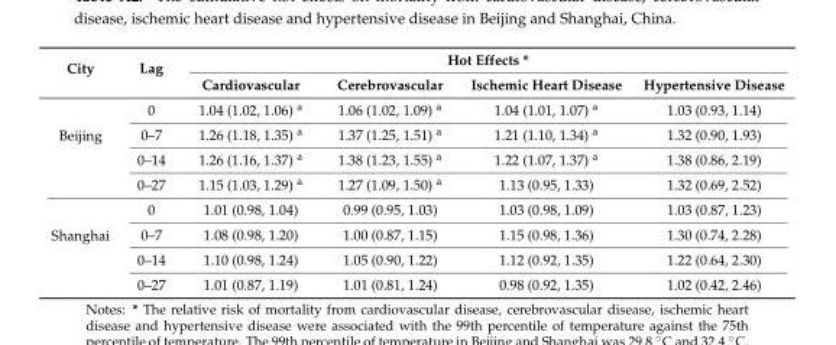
<table><thead><tr><td rowspan="2">City</td><td rowspan="2">Lag</td><td colspan="4">Hot Effects *</td></tr><tr><td>Cardiovascular</td><td>Cerebrovascular</td><td>Ischemic Heart Disease</td><td>Hypertensive Disease</td></tr></thead><tbody><tr><td rowspan="4">Beijing</td><td>0</td><td>1.04 (1.02, 1.06) <sup>a</sup></td><td>1.06 (1.02, 1.09) <sup>a</sup></td><td>1.04 (1.01, 1.07) <sup>a</sup></td><td>1.03 (0.93, 1.14)</td></tr><tr><td>0–7</td><td>1.26 (1.18, 1.35) <sup>a</sup></td><td>1.37 (1.25, 1.51) <sup>a</sup></td><td>1.21 (1.10, 1.34) <sup>a</sup></td><td>1.32 (0.90, 1.93)</td></tr><tr><td>0–14</td><td>1.26 (1.16, 1.37) <sup>a</sup></td><td>1.38 (1.23, 1.55) <sup>a</sup></td><td>1.22 (1.07, 1.37) <sup>a</sup></td><td>1.38 (0.86, 2.19)</td></tr><tr><td>0–27</td><td>1.15 (1.03, 1.29) <sup>a</sup></td><td>1.27 (1.09, 1.50) <sup>a</sup></td><td>1.13 (0.95, 1.33)</td><td>1.32 (0.69, 2.52)</td></tr><tr><td rowspan="4">Shanghai</td><td>0</td><td>1.01 (0.98, 1.04)</td><td>0.99 (0.95, 1.03)</td><td>1.03 (0.98, 1.09)</td><td>1.03 (0.87, 1.23)</td></tr><tr><td>0–7</td><td>1.08 (0.98, 1.20)</td><td>1.00 (0.87, 1.15)</td><td>1.15 (0.98, 1.36)</td><td>1.30 (0.74, 2.28)</td></tr><tr><td>0–14</td><td>1.10 (0.98, 1.24)</td><td>1.05 (0.90, 1.22)</td><td>1.12 (0.92, 1.35)</td><td>1.22 (0.64, 2.30)</td></tr><tr><td>0–27</td><td>1.01 (0.87, 1.19)</td><td>1.01 (0.81, 1.24)</td><td>0.98 (0.92, 1.35)</td><td>1.02 (0.42, 2.46)</td></tr></tbody></table>